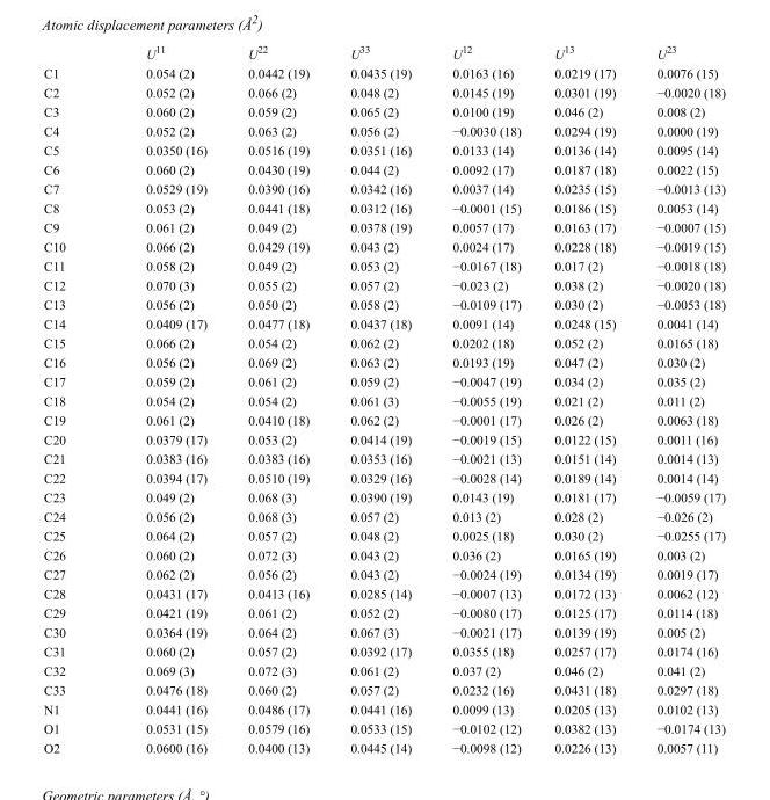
<table><thead><tr><td></td><td>U<sup>11</sup></td><td>U<sup>22</sup></td><td>U<sup>33</sup></td><td>U<sup>12</sup></td><td>U<sup>13</sup></td><td>U<sup>23</sup></td></tr></thead><tbody><tr><td>C1</td><td>0.054 (2)</td><td>0.0442 (19)</td><td>0.0435 (19)</td><td>0.0163 (16)</td><td>0.0219 (17)</td><td>0.0076 (15)</td></tr><tr><td>C2</td><td>0.052 (2)</td><td>0.066 (2)</td><td>0.048 (2)</td><td>0.0145 (19)</td><td>0.0301 (19)</td><td>−0.0020 (18)</td></tr><tr><td>C3</td><td>0.060 (2)</td><td>0.059 (2)</td><td>0.065 (2)</td><td>0.0100 (19)</td><td>0.046 (2)</td><td>0.008 (2)</td></tr><tr><td>C4</td><td>0.052 (2)</td><td>0.063 (2)</td><td>0.056 (2)</td><td>−0.0030 (18)</td><td>0.0294 (19)</td><td>0.0000 (19)</td></tr><tr><td>C5</td><td>0.0350 (16)</td><td>0.0516 (19)</td><td>0.0351 (16)</td><td>0.0133 (14)</td><td>0.0136 (14)</td><td>0.0095 (14)</td></tr><tr><td>C6</td><td>0.060 (2)</td><td>0.0430 (19)</td><td>0.044 (2)</td><td>0.0092 (17)</td><td>0.0187 (18)</td><td>0.0022 (15)</td></tr><tr><td>C7</td><td>0.0529 (19)</td><td>0.0390 (16)</td><td>0.0342 (16)</td><td>0.0037 (14)</td><td>0.0235 (15)</td><td>−0.0013 (13)</td></tr><tr><td>C8</td><td>0.053 (2)</td><td>0.0441 (18)</td><td>0.0312 (16)</td><td>−0.0001 (15)</td><td>0.0186 (15)</td><td>0.0053 (14)</td></tr><tr><td>C9</td><td>0.061 (2)</td><td>0.049 (2)</td><td>0.0378 (19)</td><td>0.0057 (17)</td><td>0.0163 (17)</td><td>−0.0007 (15)</td></tr><tr><td>C10</td><td>0.066 (2)</td><td>0.0429 (19)</td><td>0.043 (2)</td><td>0.0024 (17)</td><td>0.0228 (18)</td><td>−0.0019 (15)</td></tr><tr><td>C11</td><td>0.058 (2)</td><td>0.049 (2)</td><td>0.053 (2)</td><td>−0.0167 (18)</td><td>0.017 (2)</td><td>−0.0018 (18)</td></tr><tr><td>C12</td><td>0.070 (3)</td><td>0.055 (2)</td><td>0.057 (2)</td><td>−0.023 (2)</td><td>0.038 (2)</td><td>−0.0020 (18)</td></tr><tr><td>C13</td><td>0.056 (2)</td><td>0.050 (2)</td><td>0.058 (2)</td><td>−0.0109 (17)</td><td>0.030 (2)</td><td>−0.0053 (18)</td></tr><tr><td>C14</td><td>0.0409 (17)</td><td>0.0477 (18)</td><td>0.0437 (18)</td><td>0.0091 (14)</td><td>0.0248 (15)</td><td>0.0041 (14)</td></tr><tr><td>C15</td><td>0.066 (2)</td><td>0.054 (2)</td><td>0.062 (2)</td><td>0.0202 (18)</td><td>0.052 (2)</td><td>0.0165 (18)</td></tr><tr><td>C16</td><td>0.056 (2)</td><td>0.069 (2)</td><td>0.063 (2)</td><td>0.0193 (19)</td><td>0.047 (2)</td><td>0.030 (2)</td></tr><tr><td>C17</td><td>0.059 (2)</td><td>0.061 (2)</td><td>0.059 (2)</td><td>−0.0047 (19)</td><td>0.034 (2)</td><td>0.035 (2)</td></tr><tr><td>C18</td><td>0.054 (2)</td><td>0.054 (2)</td><td>0.061 (3)</td><td>−0.0055 (19)</td><td>0.021 (2)</td><td>0.011 (2)</td></tr><tr><td>C19</td><td>0.061 (2)</td><td>0.0410 (18)</td><td>0.062 (2)</td><td>−0.0001 (17)</td><td>0.026 (2)</td><td>0.0063 (18)</td></tr><tr><td>C20</td><td>0.0379 (17)</td><td>0.053 (2)</td><td>0.0414 (19)</td><td>−0.0019 (15)</td><td>0.0122 (15)</td><td>0.0011 (16)</td></tr><tr><td>C21</td><td>0.0383 (16)</td><td>0.0383 (16)</td><td>0.0353 (16)</td><td>−0.0021 (13)</td><td>0.0151 (14)</td><td>0.0014 (13)</td></tr><tr><td>C22</td><td>0.0394 (17)</td><td>0.0510 (19)</td><td>0.0329 (16)</td><td>−0.0028 (14)</td><td>0.0189 (14)</td><td>0.0014 (14)</td></tr><tr><td>C23</td><td>0.049 (2)</td><td>0.068 (3)</td><td>0.0390 (19)</td><td>0.0143 (19)</td><td>0.0181 (17)</td><td>−0.0059 (17)</td></tr><tr><td>C24</td><td>0.056 (2)</td><td>0.068 (3)</td><td>0.057 (2)</td><td>0.013 (2)</td><td>0.028 (2)</td><td>−0.026 (2)</td></tr><tr><td>C25</td><td>0.064 (2)</td><td>0.057 (2)</td><td>0.048 (2)</td><td>0.0025 (18)</td><td>0.030 (2)</td><td>−0.0255 (17)</td></tr><tr><td>C26</td><td>0.060 (2)</td><td>0.072 (3)</td><td>0.043 (2)</td><td>0.036 (2)</td><td>0.0165 (19)</td><td>0.003 (2)</td></tr><tr><td>C27</td><td>0.062 (2)</td><td>0.056 (2)</td><td>0.043 (2)</td><td>−0.0024 (19)</td><td>0.0134 (19)</td><td>0.0019 (17)</td></tr><tr><td>C28</td><td>0.0431 (17)</td><td>0.0413 (16)</td><td>0.0285 (14)</td><td>−0.0007 (13)</td><td>0.0172 (13)</td><td>0.0062 (12)</td></tr><tr><td>C29</td><td>0.0421 (19)</td><td>0.061 (2)</td><td>0.052 (2)</td><td>−0.0080 (17)</td><td>0.0125 (17)</td><td>0.0114 (18)</td></tr><tr><td>C30</td><td>0.0364 (19)</td><td>0.064 (2)</td><td>0.067 (3)</td><td>−0.0021 (17)</td><td>0.0139 (19)</td><td>0.005 (2)</td></tr><tr><td>C31</td><td>0.060 (2)</td><td>0.057 (2)</td><td>0.0392 (17)</td><td>0.0355 (18)</td><td>0.0257 (17)</td><td>0.0174 (16)</td></tr><tr><td>C32</td><td>0.069 (3)</td><td>0.072 (3)</td><td>0.061 (2)</td><td>0.037 (2)</td><td>0.046 (2)</td><td>0.041 (2)</td></tr><tr><td>C33</td><td>0.0476 (18)</td><td>0.060 (2)</td><td>0.057 (2)</td><td>0.0232 (16)</td><td>0.0431 (18)</td><td>0.0297 (18)</td></tr><tr><td>N1</td><td>0.0441 (16)</td><td>0.0486 (17)</td><td>0.0441 (16)</td><td>0.0099 (13)</td><td>0.0205 (13)</td><td>0.0102 (13)</td></tr><tr><td>O1</td><td>0.0531 (15)</td><td>0.0579 (16)</td><td>0.0533 (15)</td><td>−0.0102 (12)</td><td>0.0382 (13)</td><td>−0.0174 (13)</td></tr><tr><td>O2</td><td>0.0600 (16)</td><td>0.0400 (13)</td><td>0.0445 (14)</td><td>−0.0098 (12)</td><td>0.0226 (13)</td><td>0.0057 (11)</td></tr></tbody></table>